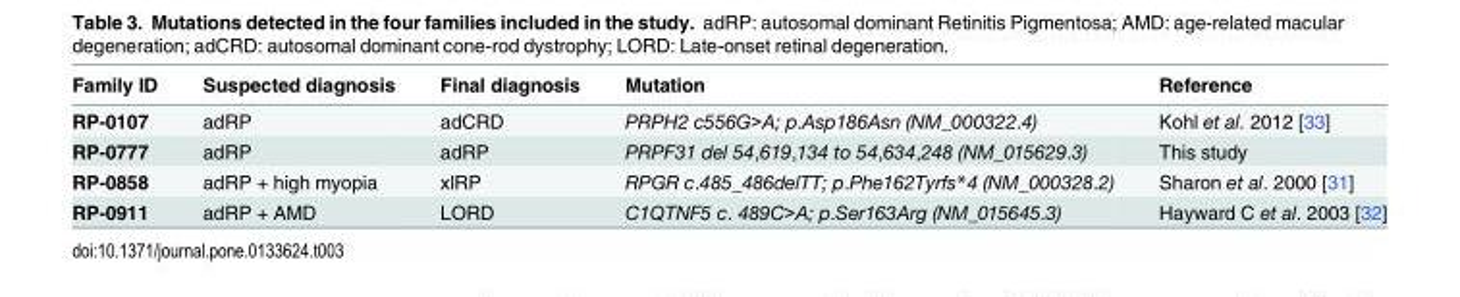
<table><thead><tr><td>Family ID</td><td>Suspected diagnosis</td><td>Final diagnosis</td><td>Mutation</td><td>Reference</td></tr></thead><tbody><tr><td>RP-0107</td><td>adRP</td><td>adCRD</td><td>PRPH2 c556G&gt;A; p.Asp186Asn (NM_000322.4)</td><td>Kohl et al. 2012 [33]</td></tr><tr><td>RP-0777</td><td>adRP</td><td>adRP</td><td>PRPF31 del 54,619,134 to 54,634,248 (NM_015629.3)</td><td>This study</td></tr><tr><td>RP-0858</td><td>adRP + high myopia</td><td>xlRP</td><td>RPGR c.485_486delTT; p.Phe162Tyrfs*4 (NM_000328.2)</td><td>Sharon et al. 2000 [31]</td></tr><tr><td>RP-0911</td><td>adRP + AMD</td><td>LORD</td><td>C1QTNF5 c. 489C&gt;A; p.Ser163Arg (NM_015645.3)</td><td>Hayward C et al. 2003 [32]</td></tr></tbody></table>